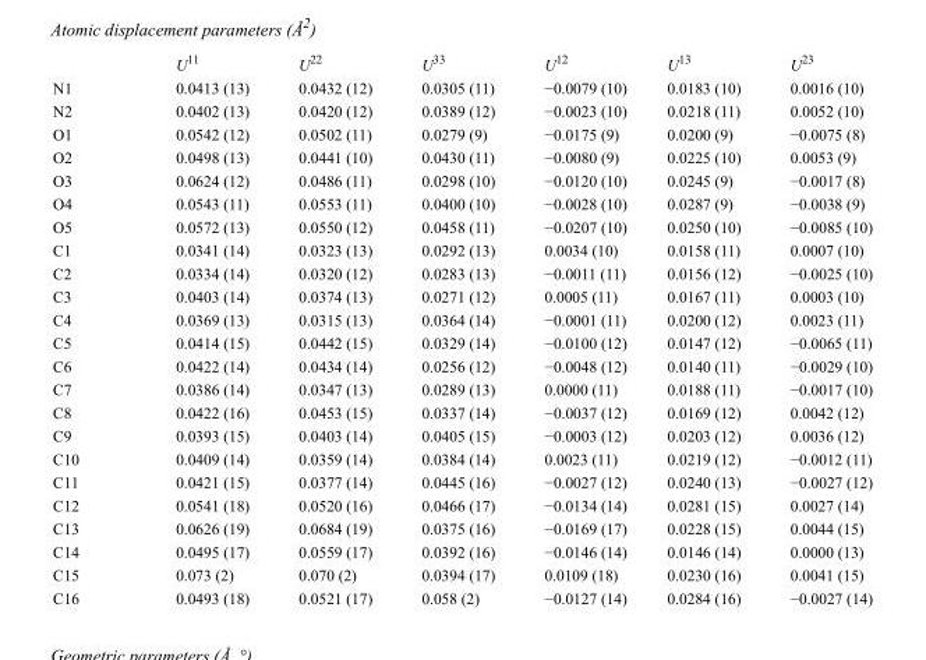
<table><thead><tr><td></td><td>U<sup>11</sup></td><td>U<sup>22</sup></td><td>U<sup>33</sup></td><td>U<sup>12</sup></td><td>U<sup>13</sup></td><td>U<sup>23</sup></td></tr></thead><tbody><tr><td>N1</td><td>0.0413 (13)</td><td>0.0432 (12)</td><td>0.0305 (11)</td><td>−0.0079 (10)</td><td>0.0183 (10)</td><td>0.0016 (10)</td></tr><tr><td>N2</td><td>0.0402 (13)</td><td>0.0420 (12)</td><td>0.0389 (12)</td><td>−0.0023 (10)</td><td>0.0218 (11)</td><td>0.0052 (10)</td></tr><tr><td>O1</td><td>0.0542 (12)</td><td>0.0502 (11)</td><td>0.0279 (9)</td><td>−0.0175 (9)</td><td>0.0200 (9)</td><td>−0.0075 (8)</td></tr><tr><td>O2</td><td>0.0498 (13)</td><td>0.0441 (10)</td><td>0.0430 (11)</td><td>−0.0080 (9)</td><td>0.0225 (10)</td><td>0.0053 (9)</td></tr><tr><td>O3</td><td>0.0624 (12)</td><td>0.0486 (11)</td><td>0.0298 (10)</td><td>−0.0120 (10)</td><td>0.0245 (9)</td><td>−0.0017 (8)</td></tr><tr><td>O4</td><td>0.0543 (11)</td><td>0.0553 (11)</td><td>0.0400 (10)</td><td>−0.0028 (10)</td><td>0.0287 (9)</td><td>−0.0038 (9)</td></tr><tr><td>O5</td><td>0.0572 (13)</td><td>0.0550 (12)</td><td>0.0458 (11)</td><td>−0.0207 (10)</td><td>0.0250 (10)</td><td>−0.0085 (10)</td></tr><tr><td>C1</td><td>0.0341 (14)</td><td>0.0323 (13)</td><td>0.0292 (13)</td><td>0.0034 (10)</td><td>0.0158 (11)</td><td>0.0007 (10)</td></tr><tr><td>C2</td><td>0.0334 (14)</td><td>0.0320 (12)</td><td>0.0283 (13)</td><td>−0.0011 (11)</td><td>0.0156 (12)</td><td>−0.0025 (10)</td></tr><tr><td>C3</td><td>0.0403 (14)</td><td>0.0374 (13)</td><td>0.0271 (12)</td><td>0.0005 (11)</td><td>0.0167 (11)</td><td>0.0003 (10)</td></tr><tr><td>C4</td><td>0.0369 (13)</td><td>0.0315 (13)</td><td>0.0364 (14)</td><td>−0.0001 (11)</td><td>0.0200 (12)</td><td>0.0023 (11)</td></tr><tr><td>C5</td><td>0.0414 (15)</td><td>0.0442 (15)</td><td>0.0329 (14)</td><td>−0.0100 (12)</td><td>0.0147 (12)</td><td>−0.0065 (11)</td></tr><tr><td>C6</td><td>0.0422 (14)</td><td>0.0434 (14)</td><td>0.0256 (12)</td><td>−0.0048 (12)</td><td>0.0140 (11)</td><td>−0.0029 (10)</td></tr><tr><td>C7</td><td>0.0386 (14)</td><td>0.0347 (13)</td><td>0.0289 (13)</td><td>0.0000 (11)</td><td>0.0188 (11)</td><td>−0.0017 (10)</td></tr><tr><td>C8</td><td>0.0422 (16)</td><td>0.0453 (15)</td><td>0.0337 (14)</td><td>−0.0037 (12)</td><td>0.0169 (12)</td><td>0.0042 (12)</td></tr><tr><td>C9</td><td>0.0393 (15)</td><td>0.0403 (14)</td><td>0.0405 (15)</td><td>−0.0003 (12)</td><td>0.0203 (12)</td><td>0.0036 (12)</td></tr><tr><td>C10</td><td>0.0409 (14)</td><td>0.0359 (14)</td><td>0.0384 (14)</td><td>0.0023 (11)</td><td>0.0219 (12)</td><td>−0.0012 (11)</td></tr><tr><td>C11</td><td>0.0421 (15)</td><td>0.0377 (14)</td><td>0.0445 (16)</td><td>−0.0027 (12)</td><td>0.0240 (13)</td><td>−0.0027 (12)</td></tr><tr><td>C12</td><td>0.0541 (18)</td><td>0.0520 (16)</td><td>0.0466 (17)</td><td>−0.0134 (14)</td><td>0.0281 (15)</td><td>0.0027 (14)</td></tr><tr><td>C13</td><td>0.0626 (19)</td><td>0.0684 (19)</td><td>0.0375 (16)</td><td>−0.0169 (17)</td><td>0.0228 (15)</td><td>0.0044 (15)</td></tr><tr><td>C14</td><td>0.0495 (17)</td><td>0.0559 (17)</td><td>0.0392 (16)</td><td>−0.0146 (14)</td><td>0.0146 (14)</td><td>0.0000 (13)</td></tr><tr><td>C15</td><td>0.073 (2)</td><td>0.070 (2)</td><td>0.0394 (17)</td><td>0.0109 (18)</td><td>0.0230 (16)</td><td>0.0041 (15)</td></tr><tr><td>C16</td><td>0.0493 (18)</td><td>0.0521 (17)</td><td>0.058 (2)</td><td>−0.0127 (14)</td><td>0.0284 (16)</td><td>−0.0027 (14)</td></tr></tbody></table>